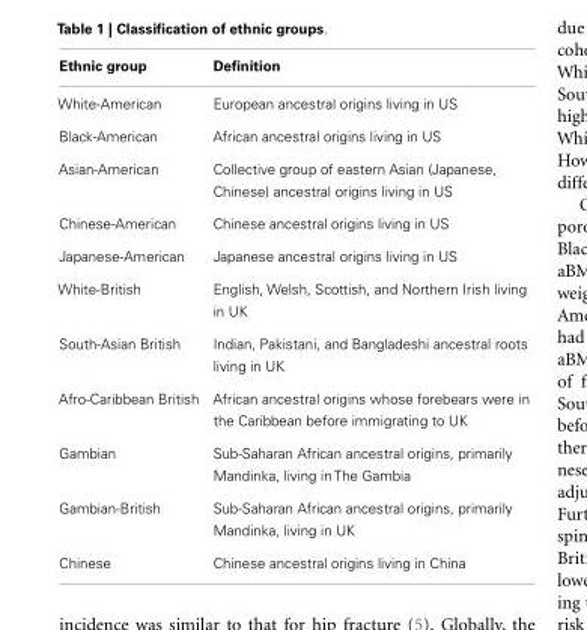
<table><thead><tr><td>Ethnic group</td><td>Definition</td></tr></thead><tbody><tr><td>White-American</td><td>European ancestral origins living in US</td></tr><tr><td>Black-American</td><td>African ancestral origins living in US</td></tr><tr><td>Asian-American</td><td>Collective group of eastern Asian (Japanese, Chinese) ancestral origins living in US</td></tr><tr><td>Chinese-American</td><td>Chinese ancestral origins living in US</td></tr><tr><td>Japanese-American</td><td>Japanese ancestral origins living in US</td></tr><tr><td>White-British</td><td>English, Welsh, Scottish, and Northern Irish living in UK</td></tr><tr><td>South-Asian British</td><td>Indian, Pakistani, and Bangladeshi ancestral roots living in UK</td></tr><tr><td>Afro-Caribbean British</td><td>African ancestral origins whose forebears were in the Caribbean before immigrating to UK</td></tr><tr><td>Gambian</td><td>Sub-Saharan African ancestral origins, primarily Mandinka, living in The Gambia</td></tr><tr><td>Gambian-British</td><td>Sub-Saharan African ancestral origins, primarily Mandinka, living in UK</td></tr><tr><td>Chinese</td><td>Chinese ancestral origins living in China</td></tr></tbody></table>